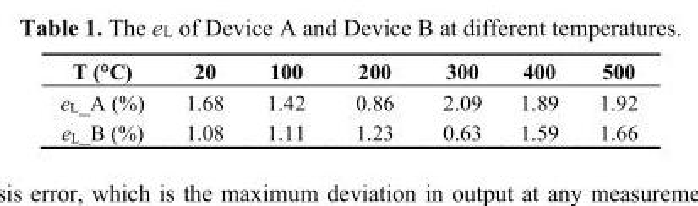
<table><thead><tr><td>T (°C)</td><td>20</td><td>100</td><td>200</td><td>300</td><td>400</td><td>500</td></tr></thead><tbody><tr><td>eL_A (%)</td><td>1.68</td><td>1.42</td><td>0.86</td><td>2.09</td><td>1.89</td><td>1.92</td></tr><tr><td>eL_B (%)</td><td>1.08</td><td>1.11</td><td>1.23</td><td>0.63</td><td>1.59</td><td>1.66</td></tr></tbody></table>